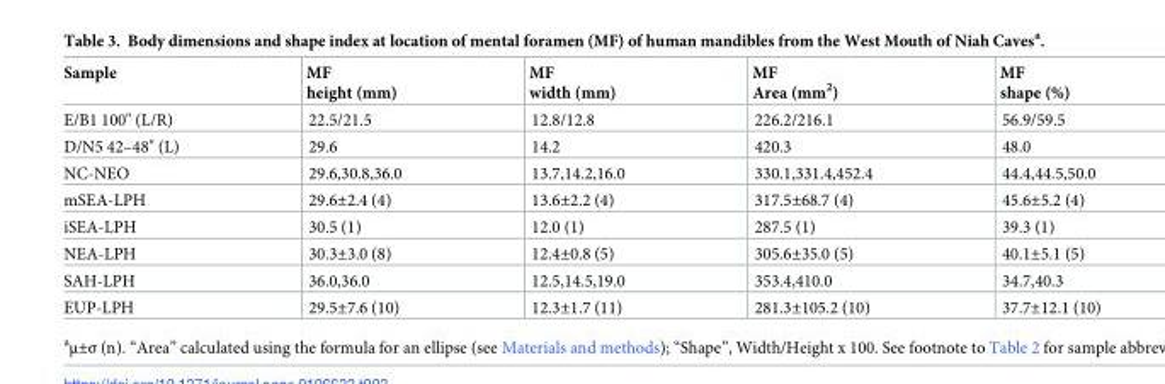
<table><thead><tr><td>Sample</td><td>MF height (mm)</td><td>MF width (mm)</td><td>MF Area (mm<sup>2</sup>)</td><td>MF shape (%)</td></tr></thead><tbody><tr><td>E/B1 100&quot; (L/R)</td><td>22.5/21.5</td><td>12.8/12.8</td><td>226.2/216.1</td><td>56.9/59.5</td></tr><tr><td>D/N5 42–48&quot; (L)</td><td>29.6</td><td>14.2</td><td>420.3</td><td>48.0</td></tr><tr><td>NC-NEO</td><td>29.6,30.8,36.0</td><td>13.7,14.2,16.0</td><td>330.1,331.4,452.4</td><td>44.4,44.5,50.0</td></tr><tr><td>mSEA-LPH</td><td>29.6±2.4 (4)</td><td>13.6±2.2 (4)</td><td>317.5±68.7 (4)</td><td>45.6±5.2 (4)</td></tr><tr><td>iSEA-LPH</td><td>30.5 (1)</td><td>12.0 (1)</td><td>287.5 (1)</td><td>39.3 (1)</td></tr><tr><td>NEA-LPH</td><td>30.3±3.0 (8)</td><td>12.4±0.8 (5)</td><td>305.6±35.0 (5)</td><td>40.1±5.1 (5)</td></tr><tr><td>SAH-LPH</td><td>36.0,36.0</td><td>12.5,14.5,19.0</td><td>353.4,410.0</td><td>34.7,40.3</td></tr><tr><td>EUP-LPH</td><td>29.5±7.6 (10)</td><td>12.3±1.7 (11)</td><td>281.3±105.2 (10)</td><td>37.7±12.1 (10)</td></tr></tbody></table>